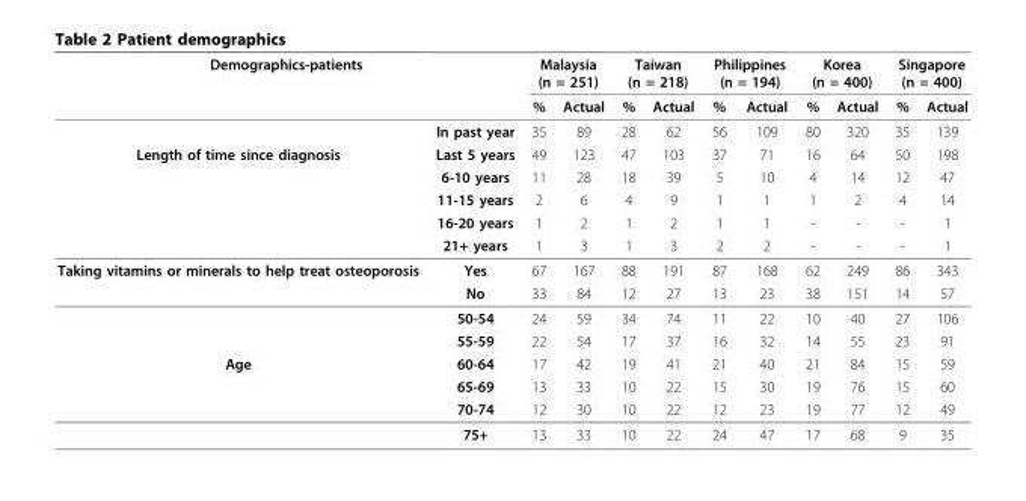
<table><thead><tr><td colspan="2">Demographics-patients</td><td colspan="2">Malaysia (n = 251)</td><td colspan="2">Taiwan (n = 218)</td><td colspan="2">Philippines (n = 194)</td><td colspan="2">Korea (n = 400)</td><td colspan="2">Singapore (n = 400)</td></tr><tr><td></td><td></td><td>%</td><td>Actual</td><td>%</td><td>Actual</td><td>%</td><td>Actual</td><td>%</td><td>Actual</td><td>%</td><td>Actual</td></tr></thead><tbody><tr><td></td><td>In past year</td><td>35</td><td>89</td><td>28</td><td>62</td><td>56</td><td>109</td><td>80</td><td>320</td><td>35</td><td>139</td></tr><tr><td rowspan="5">Length of time since diagnosis</td><td>Last 5 years</td><td>49</td><td>123</td><td>47</td><td>103</td><td>37</td><td>71</td><td>16</td><td>64</td><td>50</td><td>198</td></tr><tr><td>6-10 years</td><td>11</td><td>28</td><td>18</td><td>39</td><td>5</td><td>10</td><td>4</td><td>14</td><td>12</td><td>47</td></tr><tr><td>11-15 years</td><td>2</td><td>6</td><td>4</td><td>9</td><td>1</td><td>1</td><td>1</td><td>2</td><td>4</td><td>14</td></tr><tr><td>16-20 years</td><td>1</td><td>2</td><td>1</td><td>2</td><td>1</td><td>1</td><td>-</td><td>-</td><td>-</td><td>1</td></tr><tr><td>21+ years</td><td>1</td><td>3</td><td>1</td><td>3</td><td>2</td><td>2</td><td>-</td><td>-</td><td>-</td><td>1</td></tr><tr><td rowspan="4">Taking vitamins or minerals to help treat osteoporosis</td><td>Yes</td><td>67</td><td>167</td><td>88</td><td>191</td><td>87</td><td>168</td><td>62</td><td>249</td><td>86</td><td>343</td></tr><tr><td>No</td><td>33</td><td>84</td><td>12</td><td>27</td><td>13</td><td>23</td><td>38</td><td>151</td><td>14</td><td>57</td></tr><tr><td>50-54</td><td>24</td><td>59</td><td>34</td><td>74</td><td>11</td><td>22</td><td>10</td><td>40</td><td>27</td><td>106</td></tr><tr><td>55-59</td><td>22</td><td>54</td><td>17</td><td>37</td><td>16</td><td>32</td><td>14</td><td>55</td><td>23</td><td>91</td></tr><tr><td rowspan="4">Age</td><td>60-64</td><td>17</td><td>42</td><td>19</td><td>41</td><td>21</td><td>40</td><td>21</td><td>84</td><td>15</td><td>59</td></tr><tr><td>65-69</td><td>13</td><td>33</td><td>10</td><td>22</td><td>15</td><td>30</td><td>19</td><td>76</td><td>15</td><td>60</td></tr><tr><td>70-74</td><td>12</td><td>30</td><td>10</td><td>22</td><td>12</td><td>23</td><td>19</td><td>77</td><td>12</td><td>49</td></tr><tr><td>75+</td><td>13</td><td>33</td><td>10</td><td>22</td><td>24</td><td>47</td><td>17</td><td>68</td><td>9</td><td>35</td></tr></tbody></table>